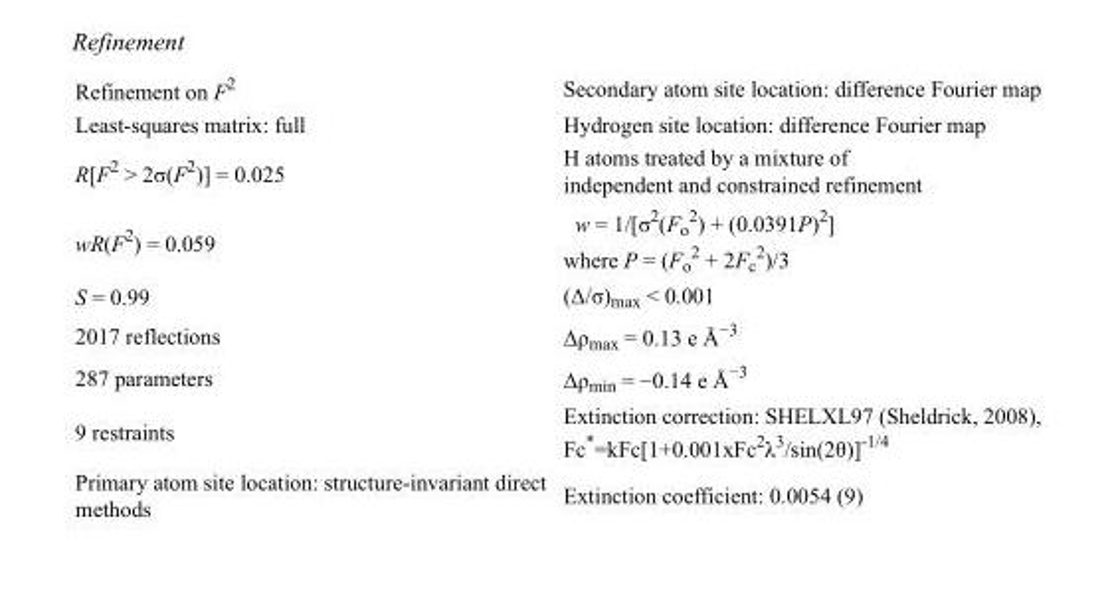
<table><tbody><tr><td>Refinement on F<sup>2</sup></td><td>Secondary atom site location: difference Fourier map</td></tr><tr><td>Least-squares matrix: full</td><td>Hydrogen site location: difference Fourier map</td></tr><tr><td>R[F<sup>2</sup> &gt; 2σ(F<sup>2</sup>)] = 0.025</td><td>H atoms treated by a mixture of independent and constrained refinement</td></tr><tr><td>wR(F<sup>2</sup>) = 0.059</td><td>w = 1/[σ<sup>2</sup>(F<sub>o</sub> <sup>2</sup>) + (0.0391P)<sup>2</sup>] where P = (F<sub>o</sub> <sup>2</sup> + 2F<sub>c</sub> <sup>2</sup>)/3</td></tr><tr><td>S = 0.99</td><td>(Δ/σ)<sub>max</sub> &lt; 0.001</td></tr><tr><td>2017 reflections</td><td>Δρ<sub>max</sub> = 0.13 e Å<sup>−3</sup></td></tr><tr><td>287 parameters</td><td>Δρ<sub>min</sub> = −0.14 e Å<sup>−3</sup></td></tr><tr><td>9 restraints</td><td>Extinction correction: SHELXL97 (Sheldrick, 2008), Fc*=kFc[1+0.001xFc<sup>2</sup>λ<sup>3</sup>/sin(2θ)]<sup>-1/4</sup></td></tr><tr><td>Primary atom site location: structure-invariant direct methods</td><td>Extinction coefficient: 0.0054 (9)</td></tr></tbody></table>